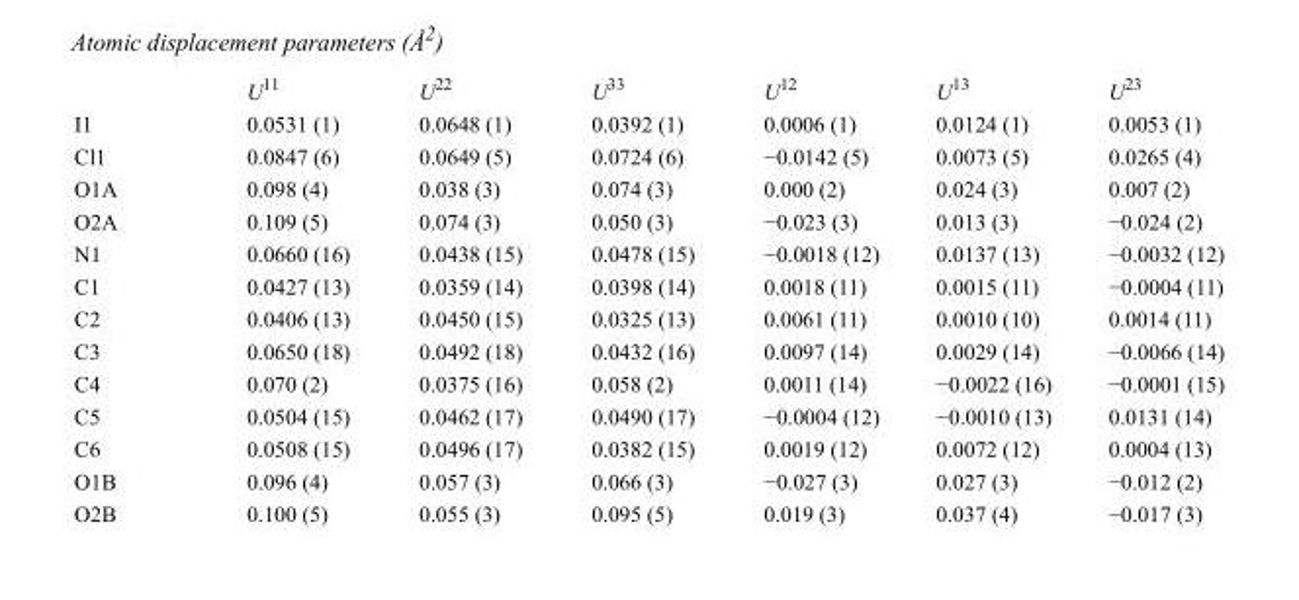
<table><thead><tr><td></td><td>U<sup>11</sup></td><td>U<sup>22</sup></td><td>U<sup>33</sup></td><td>U<sup>12</sup></td><td>U<sup>13</sup></td><td>U<sup>23</sup></td></tr></thead><tbody><tr><td>I1</td><td>0.0531 (1)</td><td>0.0648 (1)</td><td>0.0392 (1)</td><td>0.0006 (1)</td><td>0.0124 (1)</td><td>0.0053 (1)</td></tr><tr><td>Cl1</td><td>0.0847 (6)</td><td>0.0649 (5)</td><td>0.0724 (6)</td><td>−0.0142 (5)</td><td>0.0073 (5)</td><td>0.0265 (4)</td></tr><tr><td>O1A</td><td>0.098 (4)</td><td>0.038 (3)</td><td>0.074 (3)</td><td>0.000 (2)</td><td>0.024 (3)</td><td>0.007 (2)</td></tr><tr><td>O2A</td><td>0.109 (5)</td><td>0.074 (3)</td><td>0.050 (3)</td><td>−0.023 (3)</td><td>0.013 (3)</td><td>−0.024 (2)</td></tr><tr><td>N1</td><td>0.0660 (16)</td><td>0.0438 (15)</td><td>0.0478 (15)</td><td>−0.0018 (12)</td><td>0.0137 (13)</td><td>−0.0032 (12)</td></tr><tr><td>C1</td><td>0.0427 (13)</td><td>0.0359 (14)</td><td>0.0398 (14)</td><td>0.0018 (11)</td><td>0.0015 (11)</td><td>−0.0004 (11)</td></tr><tr><td>C2</td><td>0.0406 (13)</td><td>0.0450 (15)</td><td>0.0325 (13)</td><td>0.0061 (11)</td><td>0.0010 (10)</td><td>0.0014 (11)</td></tr><tr><td>C3</td><td>0.0650 (18)</td><td>0.0492 (18)</td><td>0.0432 (16)</td><td>0.0097 (14)</td><td>0.0029 (14)</td><td>−0.0066 (14)</td></tr><tr><td>C4</td><td>0.070 (2)</td><td>0.0375 (16)</td><td>0.058 (2)</td><td>0.0011 (14)</td><td>−0.0022 (16)</td><td>−0.0001 (15)</td></tr><tr><td>C5</td><td>0.0504 (15)</td><td>0.0462 (17)</td><td>0.0490 (17)</td><td>−0.0004 (12)</td><td>−0.0010 (13)</td><td>0.0131 (14)</td></tr><tr><td>C6</td><td>0.0508 (15)</td><td>0.0496 (17)</td><td>0.0382 (15)</td><td>0.0019 (12)</td><td>0.0072 (12)</td><td>0.0004 (13)</td></tr><tr><td>O1B</td><td>0.096 (4)</td><td>0.057 (3)</td><td>0.066 (3)</td><td>−0.027 (3)</td><td>0.027 (3)</td><td>−0.012 (2)</td></tr><tr><td>O2B</td><td>0.100 (5)</td><td>0.055 (3)</td><td>0.095 (5)</td><td>0.019 (3)</td><td>0.037 (4)</td><td>−0.017 (3)</td></tr></tbody></table>